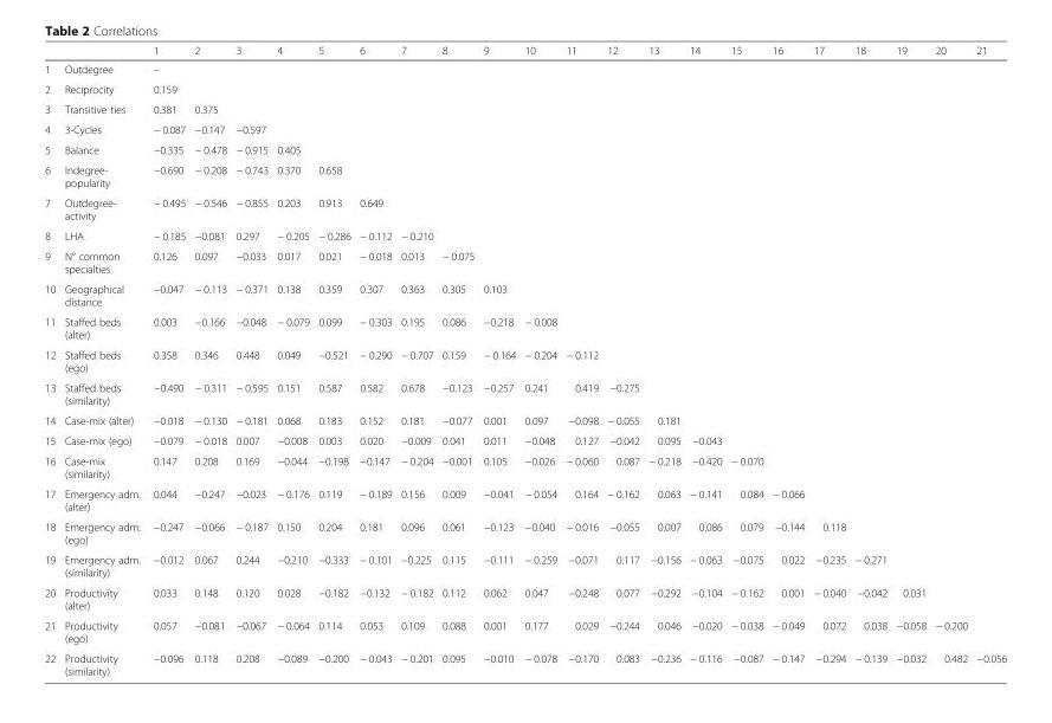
<table><thead><tr><td></td><td></td><td>1</td><td>2</td><td>3</td><td>4</td><td>5</td><td>6</td><td>7</td><td>8</td><td>9</td><td>10</td><td>11</td><td>12</td><td>13</td><td>14</td><td>15</td><td>16</td><td>17</td><td>18</td><td>19</td><td>20</td><td>21</td></tr></thead><tbody><tr><td>1</td><td>Outdegree</td><td>–</td><td></td><td></td><td></td><td></td><td></td><td></td><td></td><td></td><td></td><td></td><td></td><td></td><td></td><td></td><td></td><td></td><td></td><td></td><td></td><td></td></tr><tr><td>2</td><td>Reciprocity</td><td>0.159</td><td></td><td></td><td></td><td></td><td></td><td></td><td></td><td></td><td></td><td></td><td></td><td></td><td></td><td></td><td></td><td></td><td></td><td></td><td></td><td></td></tr><tr><td>3</td><td>Transitive ties</td><td>0.381</td><td>0.375</td><td></td><td></td><td></td><td></td><td></td><td></td><td></td><td></td><td></td><td></td><td></td><td></td><td></td><td></td><td></td><td></td><td></td><td></td><td></td></tr><tr><td>4</td><td>3-Cycles</td><td>− 0.087</td><td>−0.147</td><td>−0.597</td><td></td><td></td><td></td><td></td><td></td><td></td><td></td><td></td><td></td><td></td><td></td><td></td><td></td><td></td><td></td><td></td><td></td><td></td></tr><tr><td>5</td><td>Balance</td><td>−0.335</td><td>− 0.478</td><td>− 0.915</td><td>0.405</td><td></td><td></td><td></td><td></td><td></td><td></td><td></td><td></td><td></td><td></td><td></td><td></td><td></td><td></td><td></td><td></td><td></td></tr><tr><td>6</td><td>Indegree- popularity</td><td>−0.690</td><td>− 0.208</td><td>− 0.743</td><td>0.370</td><td>0.658</td><td></td><td></td><td></td><td></td><td></td><td></td><td></td><td></td><td></td><td></td><td></td><td></td><td></td><td></td><td></td><td></td></tr><tr><td>7</td><td>Outdegree- activity</td><td>− 0.495</td><td>− 0.546</td><td>− 0.855</td><td>0.203</td><td>0.913</td><td>0.649</td><td></td><td></td><td></td><td></td><td></td><td></td><td></td><td></td><td></td><td></td><td></td><td></td><td></td><td></td><td></td></tr><tr><td>8</td><td>LHA</td><td>− 0.185</td><td>−0.081</td><td>0.297</td><td>− 0.205</td><td>− 0.286</td><td>− 0.112</td><td>− 0.210</td><td></td><td></td><td></td><td></td><td></td><td></td><td></td><td></td><td></td><td></td><td></td><td></td><td></td><td></td></tr><tr><td>9</td><td>N° common specialties</td><td>0.126</td><td>0.097</td><td>−0.033</td><td>0.017</td><td>0.021</td><td>− 0.018</td><td>0.013</td><td>− 0.075</td><td></td><td></td><td></td><td></td><td></td><td></td><td></td><td></td><td></td><td></td><td></td><td></td><td></td></tr><tr><td>10</td><td>Geographical distance</td><td>−0.047</td><td>− 0.113</td><td>− 0.371</td><td>0.138</td><td>0.359</td><td>0.307</td><td>0.363</td><td>0.305</td><td>0.103</td><td></td><td></td><td></td><td></td><td></td><td></td><td></td><td></td><td></td><td></td><td></td><td></td></tr><tr><td>11</td><td>Staffed beds (alter)</td><td>0.003</td><td>−0.166</td><td>−0.048</td><td>− 0.079</td><td>0.099</td><td>− 0.303</td><td>0.195</td><td>0.086</td><td>−0.218</td><td>− 0.008</td><td></td><td></td><td></td><td></td><td></td><td></td><td></td><td></td><td></td><td></td><td></td></tr><tr><td>12</td><td>Staffed beds (ego)</td><td>0.358</td><td>0.346</td><td>0.448</td><td>0.049</td><td>−0.521</td><td>− 0.290</td><td>− 0.707</td><td>0.159</td><td>− 0.164</td><td>− 0.204</td><td>− 0.112</td><td></td><td></td><td></td><td></td><td></td><td></td><td></td><td></td><td></td><td></td></tr><tr><td>13</td><td>Staffed beds (similarity)</td><td>−0.490</td><td>− 0.311</td><td>− 0.595</td><td>0.151</td><td>0.587</td><td>0.582</td><td>0.678</td><td>−0.123</td><td>−0.257</td><td>0.241</td><td>0.419</td><td>−0.275</td><td></td><td></td><td></td><td></td><td></td><td></td><td></td><td></td><td></td></tr><tr><td>14</td><td>Case-mix (alter)</td><td>−0.018</td><td>− 0.130</td><td>− 0.181</td><td>0.068</td><td>0.183</td><td>0.152</td><td>0.181</td><td>−0.077</td><td>0.001</td><td>0.097</td><td>−0.098</td><td>− 0.055</td><td>0.181</td><td></td><td></td><td></td><td></td><td></td><td></td><td></td><td></td></tr><tr><td>15</td><td>Case-mix (ego)</td><td>−0.079</td><td>− 0.018</td><td>0.007</td><td>−0.008</td><td>0.003</td><td>0.020</td><td>−0.009</td><td>0.041</td><td>0.011</td><td>−0.048</td><td>0.127</td><td>−0.042</td><td>0.095</td><td>−0.043</td><td></td><td></td><td></td><td></td><td></td><td></td><td></td></tr><tr><td>16</td><td>Case-mix (similarity)</td><td>0.147</td><td>0.208</td><td>0.169</td><td>−0.044</td><td>−0.198</td><td>−0.147</td><td>− 0.204</td><td>−0.001</td><td>0.105</td><td>−0.026</td><td>− 0.060</td><td>0.087</td><td>− 0.218</td><td>−0.420</td><td>− 0.070</td><td></td><td></td><td></td><td></td><td></td><td></td></tr><tr><td>17</td><td>Emergency adm. (alter)</td><td>0.044</td><td>−0.247</td><td>−0.023</td><td>− 0.176</td><td>0.119</td><td>− 0.189</td><td>0.156</td><td>0.009</td><td>−0.041</td><td>− 0.054</td><td>0.164</td><td>− 0.162</td><td>0.063</td><td>− 0.141</td><td>0.084</td><td>− 0.066</td><td></td><td></td><td></td><td></td><td></td></tr><tr><td>18</td><td>Emergency adm. (ego)</td><td>−0.247</td><td>−0.066</td><td>− 0.187</td><td>0.150</td><td>0.204</td><td>0.181</td><td>0.096</td><td>0.061</td><td>−0.123</td><td>−0.040</td><td>− 0.016</td><td>−0.055</td><td>0.007</td><td>0.086</td><td>0.079</td><td>−0.144</td><td>0.118</td><td></td><td></td><td></td><td></td></tr><tr><td>19</td><td>Emergency adm. (similarity)</td><td>−0.012</td><td>0.067</td><td>0.244</td><td>−0.210</td><td>−0.333</td><td>− 0.101</td><td>−0.225</td><td>0.115</td><td>−0.111</td><td>− 0.259</td><td>−0.071</td><td>0.117</td><td>−0.156</td><td>− 0.063</td><td>−0.075</td><td>0.022</td><td>−0.235</td><td>− 0.271</td><td></td><td></td><td></td></tr><tr><td>20</td><td>Productivity (alter)</td><td>0.033</td><td>0.148</td><td>0.120</td><td>0.028</td><td>−0.182</td><td>−0.132</td><td>− 0.182</td><td>0.112</td><td>0.062</td><td>0.047</td><td>−0.248</td><td>0.077</td><td>−0.292</td><td>−0.104</td><td>− 0.162</td><td>0.001</td><td>− 0.040</td><td>−0.042</td><td>0.031</td><td></td><td></td></tr><tr><td>21</td><td>Productivity (ego)</td><td>0.057</td><td>−0.081</td><td>−0.067</td><td>− 0.064</td><td>0.114</td><td>0.053</td><td>0.109</td><td>0.088</td><td>0.001</td><td>0.177</td><td>0.029</td><td>−0.244</td><td>0.046</td><td>−0.020</td><td>− 0.038</td><td>− 0.049</td><td>0.072</td><td>0.038</td><td>−0.058</td><td>− 0.200</td><td></td></tr><tr><td>22</td><td>Productivity (similarity)</td><td>−0.096</td><td>0.118</td><td>0.208</td><td>−0.089</td><td>−0.200</td><td>− 0.043</td><td>− 0.201</td><td>0.095</td><td>−0.010</td><td>− 0.078</td><td>−0.170</td><td>0.083</td><td>−0.236</td><td>− 0.116</td><td>−0.087</td><td>− 0.147</td><td>−0.294</td><td>− 0.139</td><td>−0.032</td><td>0.482</td><td>−0.056</td></tr></tbody></table>